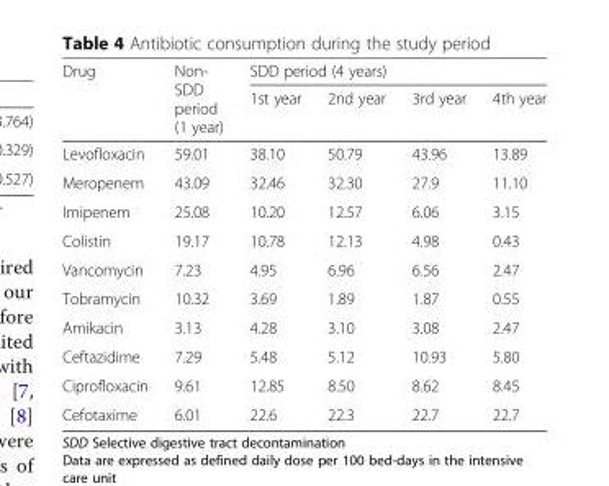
<table><thead><tr><td rowspan="2">Drug</td><td rowspan="2">Non- SDD period (1 year)</td><td colspan="4">SDD period (4 years)</td></tr><tr><td>1st year</td><td>2nd year</td><td>3rd year</td><td>4th year</td></tr></thead><tbody><tr><td>Levofloxacin</td><td>59.01</td><td>38.10</td><td>50.79</td><td>43.96</td><td>13.89</td></tr><tr><td>Meropenem</td><td>43.09</td><td>32.46</td><td>32.30</td><td>27.9</td><td>11.10</td></tr><tr><td>Imipenem</td><td>25.08</td><td>10.20</td><td>12.57</td><td>6.06</td><td>3.15</td></tr><tr><td>Colistin</td><td>19.17</td><td>10.78</td><td>12.13</td><td>4.98</td><td>0.43</td></tr><tr><td>Vancomycin</td><td>7.23</td><td>4.95</td><td>6.96</td><td>6.56</td><td>2.47</td></tr><tr><td>Tobramycin</td><td>10.32</td><td>3.69</td><td>1.89</td><td>1.87</td><td>0.55</td></tr><tr><td>Amikacin</td><td>3.13</td><td>4.28</td><td>3.10</td><td>3.08</td><td>2.47</td></tr><tr><td>Ceftazidime</td><td>7.29</td><td>5.48</td><td>5.12</td><td>10.93</td><td>5.80</td></tr><tr><td>Ciprofloxacin</td><td>9.61</td><td>12.85</td><td>8.50</td><td>8.62</td><td>8.45</td></tr><tr><td>Cefotaxime</td><td>6.01</td><td>22.6</td><td>22.3</td><td>22.7</td><td>22.7</td></tr></tbody></table>